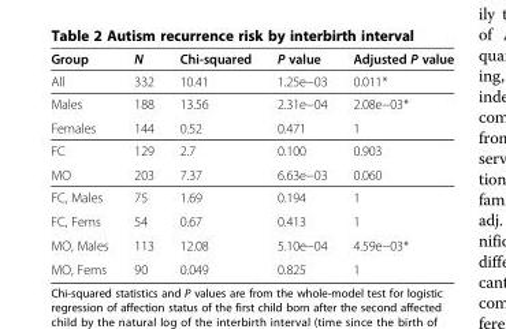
<table><thead><tr><td>Group</td><td>N</td><td>Chi-squared</td><td>P value</td><td>Adjusted P value</td></tr></thead><tbody><tr><td>All</td><td>332</td><td>10.41</td><td>1.25e−03</td><td>0.011*</td></tr><tr><td>Males</td><td>188</td><td>13.56</td><td>2.31e−04</td><td>2.08e−03*</td></tr><tr><td>Females</td><td>144</td><td>0.52</td><td>0.471</td><td>1</td></tr><tr><td>FC</td><td>129</td><td>2.7</td><td>0.100</td><td>0.903</td></tr><tr><td>MO</td><td>203</td><td>7.37</td><td>6.63e−03</td><td>0.060</td></tr><tr><td>FC, Males</td><td>75</td><td>1.69</td><td>0.194</td><td>1</td></tr><tr><td>FC, Fems</td><td>54</td><td>0.67</td><td>0.413</td><td>1</td></tr><tr><td>MO, Males</td><td>113</td><td>12.08</td><td>5.10e−04</td><td>4.59e−03*</td></tr><tr><td>MO, Fems</td><td>90</td><td>0.049</td><td>0.825</td><td>1</td></tr></tbody></table>